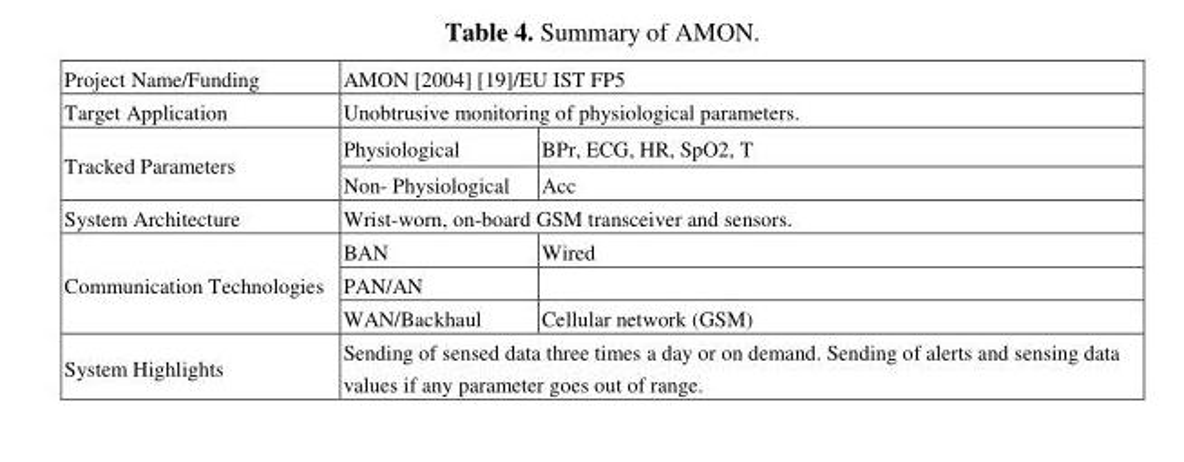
<table><tbody><tr><td>Project Name/Funding</td><td colspan="2">AMON [2004] [19]/EU IST FP5</td></tr><tr><td>Target Application</td><td colspan="2">Unobtrusive monitoring of physiological parameters.</td></tr><tr><td rowspan="2">Tracked Parameters</td><td>Physiological</td><td>BPr, ECG, HR, SpO2, T</td></tr><tr><td>Non- Physiological</td><td>Acc</td></tr><tr><td>System Architecture</td><td colspan="2">Wrist-worn, on-board GSM transceiver and sensors.</td></tr><tr><td rowspan="3">Communication Technologies</td><td>BAN</td><td>Wired</td></tr><tr><td>PAN/AN</td><td></td></tr><tr><td>WAN/Backhaul</td><td>Cellular network (GSM)</td></tr><tr><td>System Highlights</td><td colspan="2">Sending of sensed data three times a day or on demand. Sending of alerts and sensing data values if any parameter goes out of range.</td></tr></tbody></table>